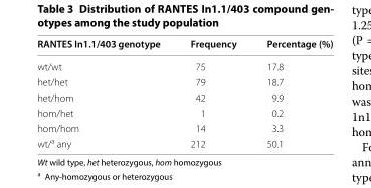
<table><thead><tr><td>RANTES In1.1/403 genotype</td><td>Frequency</td><td>Percentage (%)</td></tr></thead><tbody><tr><td>wt/wt</td><td>75</td><td>17.8</td></tr><tr><td>het/het</td><td>79</td><td>18.7</td></tr><tr><td>het/hom</td><td>42</td><td>9.9</td></tr><tr><td>hom/het</td><td>1</td><td>0.2</td></tr><tr><td>hom/hom</td><td>14</td><td>3.3</td></tr><tr><td>wt/<sup>a</sup> any</td><td>212</td><td>50.1</td></tr></tbody></table>